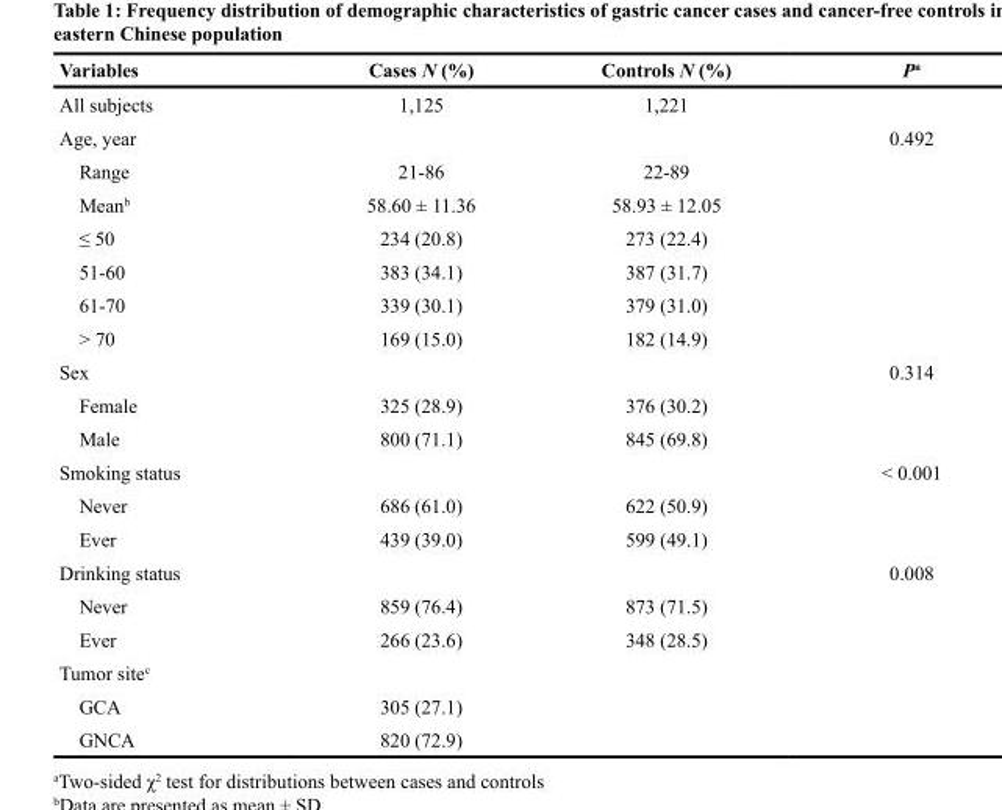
<table><thead><tr><td>Variables</td><td>Cases N (%)</td><td>Controls N (%)</td><td>P<sup>a</sup></td></tr></thead><tbody><tr><td>All subjects</td><td>1,125</td><td>1,221</td><td></td></tr><tr><td>Age, year</td><td></td><td></td><td>0.492</td></tr><tr><td>Range</td><td>21-86</td><td>22-89</td><td></td></tr><tr><td>Mean<sup>b</sup></td><td>58.60 ± 11.36</td><td>58.93 ± 12.05</td><td></td></tr><tr><td>≤ 50</td><td>234 (20.8)</td><td>273 (22.4)</td><td></td></tr><tr><td>51-60</td><td>383 (34.1)</td><td>387 (31.7)</td><td></td></tr><tr><td>61-70</td><td>339 (30.1)</td><td>379 (31.0)</td><td></td></tr><tr><td>&gt; 70</td><td>169 (15.0)</td><td>182 (14.9)</td><td></td></tr><tr><td>Sex</td><td></td><td></td><td>0.314</td></tr><tr><td>Female</td><td>325 (28.9)</td><td>376 (30.2)</td><td></td></tr><tr><td>Male</td><td>800 (71.1)</td><td>845 (69.8)</td><td></td></tr><tr><td>Smoking status</td><td></td><td></td><td>&lt; 0.001</td></tr><tr><td>Never</td><td>686 (61.0)</td><td>622 (50.9)</td><td></td></tr><tr><td>Ever</td><td>439 (39.0)</td><td>599 (49.1)</td><td></td></tr><tr><td>Drinking status</td><td></td><td></td><td>0.008</td></tr><tr><td>Never</td><td>859 (76.4)</td><td>873 (71.5)</td><td></td></tr><tr><td>Ever</td><td>266 (23.6)</td><td>348 (28.5)</td><td></td></tr><tr><td colspan="4">Tumor site<sup>c</sup></td></tr><tr><td>GCA</td><td>305 (27.1)</td><td></td><td></td></tr><tr><td>GNCA</td><td>820 (72.9)</td><td></td><td></td></tr></tbody></table>